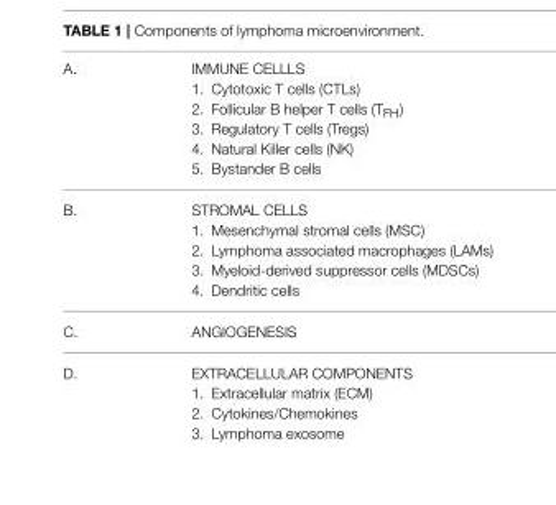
<table><tbody><tr><td>A.</td><td>IMMUNE CELLLS 1. Cytotoxic T cells (CTLs) 2. Follicular B helper T cells (T<sub>FH</sub>) 3. Regulatory T cells (Tregs) 4. Natural Killer cells (NK) 5. Bystander B cells</td></tr><tr><td>B.</td><td>STROMAL CELLS 1. Mesenchymal stromal cells (MSC) 2. Lymphoma associated macrophages (LAMs) 3. Myeloid-derived suppressor cells (MDSCs) 4. Dendritic cells</td></tr><tr><td>C.</td><td>ANGIOGENESIS</td></tr><tr><td>D.</td><td>EXTRACELLULAR COMPONENTS 1. Extracellular matrix (ECM) 2. Cytokines/Chemokines 3. Lymphoma exosome</td></tr></tbody></table>